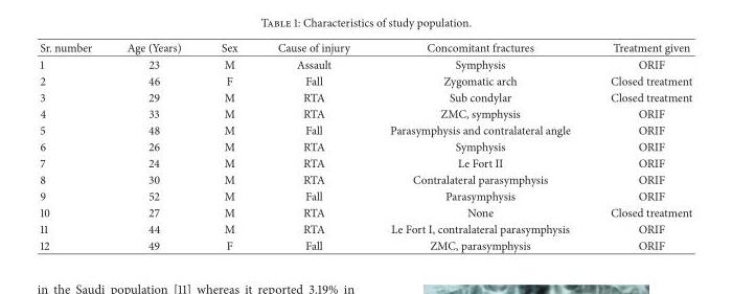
<table><thead><tr><td>Sr. number</td><td>Age (Years)</td><td>Sex</td><td>Cause of injury</td><td>Concomitant fractures</td><td>Treatment given</td></tr></thead><tbody><tr><td>1</td><td>23</td><td>M</td><td>Assault</td><td>Symphysis</td><td>ORIF</td></tr><tr><td>2</td><td>46</td><td>F</td><td>Fall</td><td>Zygomatic arch</td><td>Closed treatment</td></tr><tr><td>3</td><td>29</td><td>M</td><td>RTA</td><td>Sub condylar</td><td>Closed treatment</td></tr><tr><td>4</td><td>33</td><td>M</td><td>RTA</td><td>ZMC, symphysis</td><td>ORIF</td></tr><tr><td>5</td><td>48</td><td>M</td><td>Fall</td><td>Parasymphysis and contralateral angle</td><td>ORIF</td></tr><tr><td>6</td><td>26</td><td>M</td><td>RTA</td><td>Symphysis</td><td>ORIF</td></tr><tr><td>7</td><td>24</td><td>M</td><td>RTA</td><td>Le Fort II</td><td>ORIF</td></tr><tr><td>8</td><td>30</td><td>M</td><td>RTA</td><td>Contralateral parasymphysis</td><td>ORIF</td></tr><tr><td>9</td><td>52</td><td>M</td><td>Fall</td><td>Parasymphysis</td><td>ORIF</td></tr><tr><td>10</td><td>27</td><td>M</td><td>RTA</td><td>None</td><td>Closed treatment</td></tr><tr><td>11</td><td>44</td><td>M</td><td>RTA</td><td>Le Fort I, contralateral parasymphysis</td><td>ORIF</td></tr><tr><td>12</td><td>49</td><td>F</td><td>Fall</td><td>ZMC, parasymphysis</td><td>ORIF</td></tr></tbody></table>